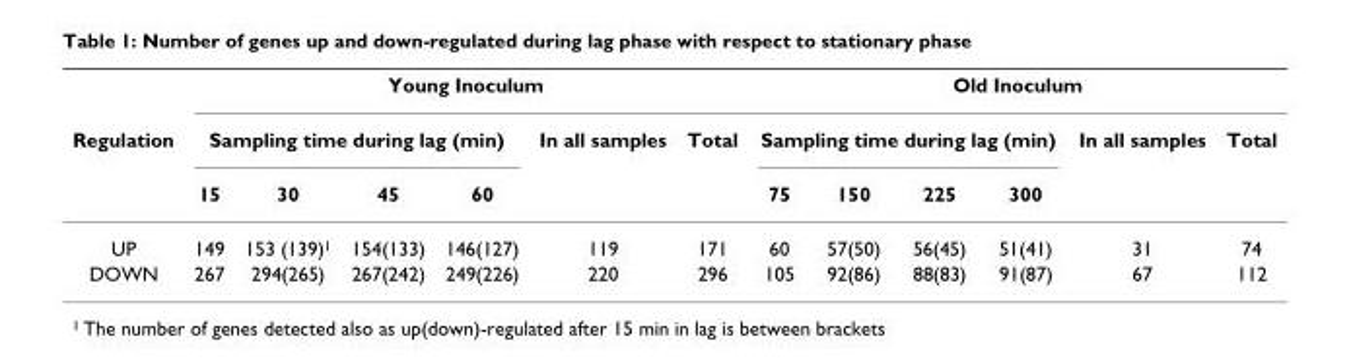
<table><thead><tr><td rowspan="3">Regulation</td><td colspan="6">Young Inoculum</td><td colspan="6">Old Inoculum</td></tr><tr><td colspan="4">Sampling time during lag (min)</td><td rowspan="2">In all samples</td><td rowspan="2">Total</td><td colspan="4">Sampling time during lag (min)</td><td rowspan="2">In all samples</td><td rowspan="2">Total</td></tr><tr><td>15</td><td>30</td><td>45</td><td>60</td><td>75</td><td>150</td><td>225</td><td>300</td></tr></thead><tbody><tr><td>UP</td><td>149</td><td>153 (139)<sup>1</sup></td><td>154(133)</td><td>146(127)</td><td>119</td><td>171</td><td>60</td><td>57(50)</td><td>56(45)</td><td>51(41)</td><td>31</td><td>74</td></tr><tr><td>DOWN</td><td>267</td><td>294(265)</td><td>267(242)</td><td>249(226)</td><td>220</td><td>296</td><td>105</td><td>92(86)</td><td>88(83)</td><td>91(87)</td><td>67</td><td>112</td></tr></tbody></table>